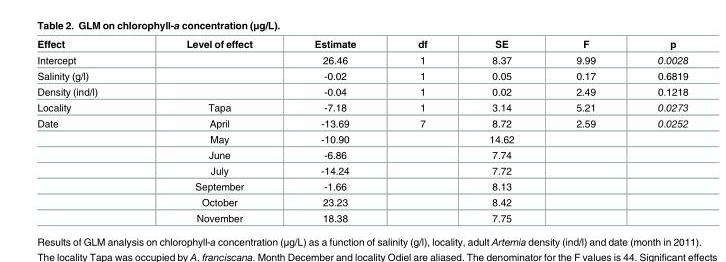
<table><thead><tr><td>Effect</td><td>Level of effect</td><td>Estimate</td><td>df</td><td>SE</td><td>F</td><td>p</td></tr></thead><tbody><tr><td>Intercept</td><td></td><td>26.46</td><td>1</td><td>8.37</td><td>9.99</td><td>0.0028</td></tr><tr><td>Salinity (g/l)</td><td></td><td>-0.02</td><td>1</td><td>0.05</td><td>0.17</td><td>0.6819</td></tr><tr><td>Density (ind/l)</td><td></td><td>-0.04</td><td>1</td><td>0.02</td><td>2.49</td><td>0.1218</td></tr><tr><td>Locality</td><td>Tapa</td><td>-7.18</td><td>1</td><td>3.14</td><td>5.21</td><td>0.0273</td></tr><tr><td rowspan="7">Date</td><td>April</td><td>-13.69</td><td>7</td><td>8.72</td><td>2.59</td><td>0.0252</td></tr><tr><td>May</td><td>-10.90</td><td></td><td>14.62</td><td></td><td></td></tr><tr><td>June</td><td>-6.86</td><td></td><td>7.74</td><td></td><td></td></tr><tr><td>July</td><td>-14.24</td><td></td><td>7.72</td><td></td><td></td></tr><tr><td>September</td><td>-1.66</td><td></td><td>8.13</td><td></td><td></td></tr><tr><td>October</td><td>23.23</td><td></td><td>8.42</td><td></td><td></td></tr><tr><td>November</td><td>18.38</td><td></td><td>7.75</td><td></td><td></td></tr></tbody></table>